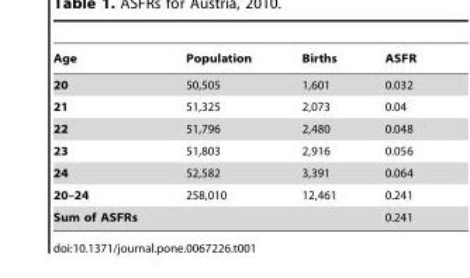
<table><thead><tr><td>Age</td><td>Population</td><td>Births</td><td>ASFR</td></tr></thead><tbody><tr><td>20</td><td>50,505</td><td>1,601</td><td>0.032</td></tr><tr><td>21</td><td>51,325</td><td>2,073</td><td>0.04</td></tr><tr><td>22</td><td>51,796</td><td>2,480</td><td>0.048</td></tr><tr><td>23</td><td>51,803</td><td>2,916</td><td>0.056</td></tr><tr><td>24</td><td>52,582</td><td>3,391</td><td>0.064</td></tr><tr><td>20–24</td><td>258,010</td><td>12,461</td><td>0.241</td></tr><tr><td colspan="2">Sum of ASFRs</td><td></td><td>0.241</td></tr></tbody></table>